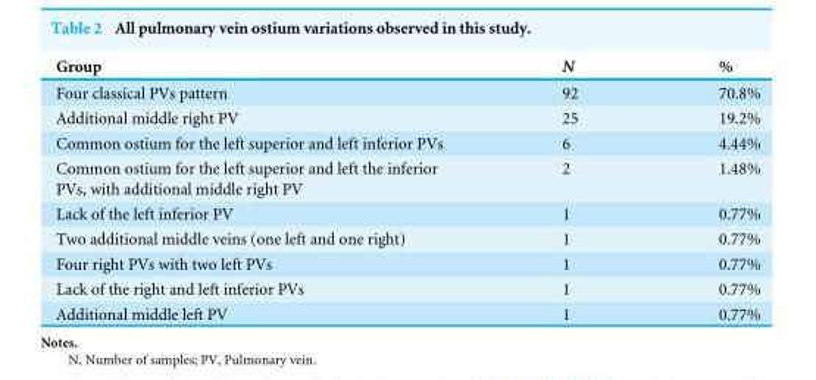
<table><thead><tr><td>Group</td><td>N</td><td>%</td></tr></thead><tbody><tr><td>Four classical PVs pattern</td><td>92</td><td>70.8%</td></tr><tr><td>Additional middle right PV</td><td>25</td><td>19.2%</td></tr><tr><td>Common ostium for the left superior and left inferior PVs</td><td>6</td><td>4.44%</td></tr><tr><td>Common ostium for the left superior and left the inferior PVs, with additional middle right PV</td><td>2</td><td>1.48%</td></tr><tr><td>Lack of the left inferior PV</td><td>1</td><td>0.77%</td></tr><tr><td>Two additional middle veins (one left and one right)</td><td>1</td><td>0.77%</td></tr><tr><td>Four right PVs with two left PVs</td><td>1</td><td>0.77%</td></tr><tr><td>Lack of the right and left inferior PVs</td><td>1</td><td>0.77%</td></tr><tr><td>Additional middle left PV</td><td>1</td><td>0.77%</td></tr></tbody></table>